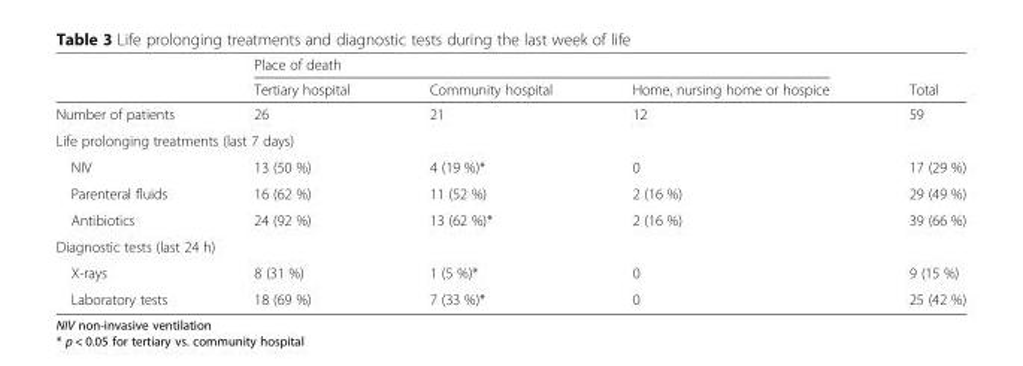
<table><thead><tr><td rowspan="2"></td><td colspan="3">Place of death</td><td rowspan="2">Total</td></tr><tr><td>Tertiary hospital</td><td>Community hospital</td><td>Home, nursing home or hospice</td></tr></thead><tbody><tr><td>Number of patients</td><td>26</td><td>21</td><td>12</td><td>59</td></tr><tr><td colspan="5">Life prolonging treatments (last 7 days)</td></tr><tr><td>NIV</td><td>13 (50 %)</td><td>4 (19 %)*</td><td>0</td><td>17 (29 %)</td></tr><tr><td>Parenteral fluids</td><td>16 (62 %)</td><td>11 (52 %)</td><td>2 (16 %)</td><td>29 (49 %)</td></tr><tr><td>Antibiotics</td><td>24 (92 %)</td><td>13 (62 %)*</td><td>2 (16 %)</td><td>39 (66 %)</td></tr><tr><td colspan="5">Diagnostic tests (last 24 h)</td></tr><tr><td>X-rays</td><td>8 (31 %)</td><td>1 (5 %)*</td><td>0</td><td>9 (15 %)</td></tr><tr><td>Laboratory tests</td><td>18 (69 %)</td><td>7 (33 %)*</td><td>0</td><td>25 (42 %)</td></tr></tbody></table>